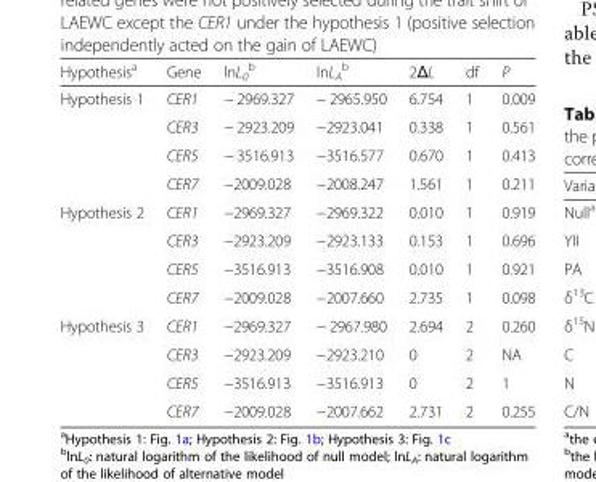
<table><thead><tr><td>Hypothesis<sup>a</sup></td><td>Gene</td><td>lnL<sub>0</sub> <sup>b</sup></td><td>lnL<sub>A</sub> <sup>b</sup></td><td>2ΔL</td><td>df</td><td>P</td></tr></thead><tbody><tr><td rowspan="4">Hypothesis 1</td><td>CER1</td><td>− 2969.327</td><td>− 2965.950</td><td>6.754</td><td>1</td><td>0.009</td></tr><tr><td>CER3</td><td>− 2923.209</td><td>−2923.041</td><td>0.338</td><td>1</td><td>0.561</td></tr><tr><td>CER5</td><td>− 3516.913</td><td>−3516.577</td><td>0.670</td><td>1</td><td>0.413</td></tr><tr><td>CER7</td><td>−2009.028</td><td>−2008.247</td><td>1.561</td><td>1</td><td>0.211</td></tr><tr><td rowspan="4">Hypothesis 2</td><td>CER1</td><td>−2969.327</td><td>−2969.322</td><td>0.010</td><td>1</td><td>0.919</td></tr><tr><td>CER3</td><td>−2923.209</td><td>−2923.133</td><td>0.153</td><td>1</td><td>0.696</td></tr><tr><td>CER5</td><td>−3516.913</td><td>−3516.908</td><td>0.010</td><td>1</td><td>0.921</td></tr><tr><td>CER7</td><td>−2009.028</td><td>−2007.660</td><td>2.735</td><td>1</td><td>0.098</td></tr><tr><td rowspan="4">Hypothesis 3</td><td>CER1</td><td>−2969.327</td><td>− 2967.980</td><td>2.694</td><td>2</td><td>0.260</td></tr><tr><td>CER3</td><td>−2923.209</td><td>−2923.210</td><td>0</td><td>2</td><td>NA</td></tr><tr><td>CER5</td><td>−3516.913</td><td>−3516.913</td><td>0</td><td>2</td><td>1</td></tr><tr><td>CER7</td><td>−2009.028</td><td>−2007.662</td><td>2.731</td><td>2</td><td>0.255</td></tr></tbody></table>